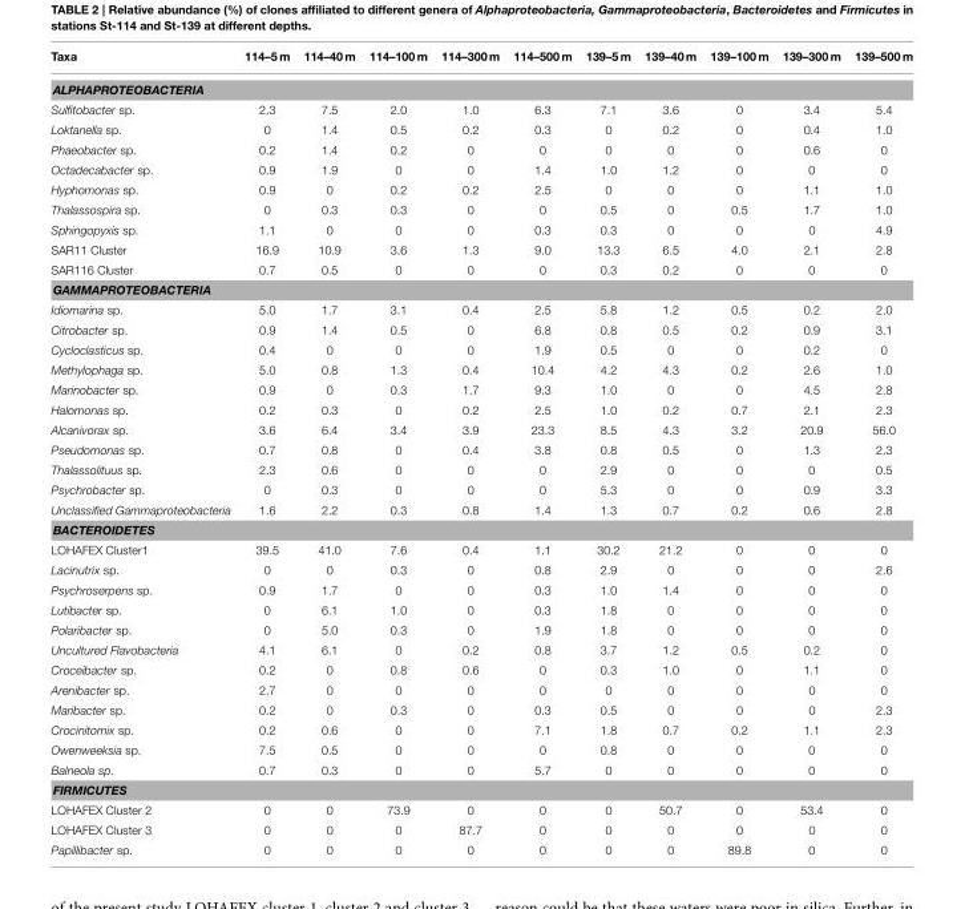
<table><thead><tr><td>Taxa</td><td>114–5 m</td><td>114–40 m</td><td>114–100 m</td><td>114–300 m</td><td>114–500 m</td><td>139–5 m</td><td>139–40 m</td><td>139–100 m</td><td>139–300 m</td><td>139–500 m</td></tr></thead><tbody><tr><td colspan="11">ALPHAPROTEOBACTERIA</td></tr><tr><td>Sulfitobacter sp.</td><td>2.3</td><td>7.5</td><td>2.0</td><td>1.0</td><td>6.3</td><td>7.1</td><td>3.6</td><td>0</td><td>3.4</td><td>5.4</td></tr><tr><td>Loktanella sp.</td><td>0</td><td>1.4</td><td>0.5</td><td>0.2</td><td>0.3</td><td>0</td><td>0.2</td><td>0</td><td>0.4</td><td>1.0</td></tr><tr><td>Phaeobacter sp.</td><td>0.2</td><td>1.4</td><td>0.2</td><td>0</td><td>0</td><td>0</td><td>0</td><td>0</td><td>0.6</td><td>0</td></tr><tr><td>Octadecabacter sp.</td><td>0.9</td><td>1.9</td><td>0</td><td>0</td><td>1.4</td><td>1.0</td><td>1.2</td><td>0</td><td>0</td><td>0</td></tr><tr><td>Hyphomonas sp.</td><td>0.9</td><td>0</td><td>0.2</td><td>0.2</td><td>2.5</td><td>0</td><td>0</td><td>0</td><td>1.1</td><td>1.0</td></tr><tr><td>Thalassospira sp.</td><td>0</td><td>0.3</td><td>0.3</td><td>0</td><td>0</td><td>0.5</td><td>0</td><td>0.5</td><td>1.7</td><td>1.0</td></tr><tr><td>Sphingopyxis sp.</td><td>1.1</td><td>0</td><td>0</td><td>0</td><td>0.3</td><td>0.3</td><td>0</td><td>0</td><td>0</td><td>4.9</td></tr><tr><td>SAR11 Cluster</td><td>16.9</td><td>10.9</td><td>3.6</td><td>1.3</td><td>9.0</td><td>13.3</td><td>6.5</td><td>4.0</td><td>2.1</td><td>2.8</td></tr><tr><td>SAR116 Cluster</td><td>0.7</td><td>0.5</td><td>0</td><td>0</td><td>0</td><td>0.3</td><td>0.2</td><td>0</td><td>0</td><td>0</td></tr><tr><td colspan="11">GAMMAPROTEOBACTERIA</td></tr><tr><td>Idiomarina sp.</td><td>5.0</td><td>1.7</td><td>3.1</td><td>0.4</td><td>2.5</td><td>5.8</td><td>1.2</td><td>0.5</td><td>0.2</td><td>2.0</td></tr><tr><td>Citrobacter sp.</td><td>0.9</td><td>1.4</td><td>0.5</td><td>0</td><td>6.8</td><td>0.8</td><td>0.5</td><td>0.2</td><td>0.9</td><td>3.1</td></tr><tr><td>Cycloclasticus sp.</td><td>0.4</td><td>0</td><td>0</td><td>0</td><td>1.9</td><td>0.5</td><td>0</td><td>0</td><td>0.2</td><td>0</td></tr><tr><td>Methylophaga sp.</td><td>5.0</td><td>0.8</td><td>1.3</td><td>0.4</td><td>10.4</td><td>4.2</td><td>4.3</td><td>0.2</td><td>2.6</td><td>1.0</td></tr><tr><td>Marinobacter sp.</td><td>0.9</td><td>0</td><td>0.3</td><td>1.7</td><td>9.3</td><td>1.0</td><td>0</td><td>0</td><td>4.5</td><td>2.8</td></tr><tr><td>Halomonas sp.</td><td>0.2</td><td>0.3</td><td>0</td><td>0.2</td><td>2.5</td><td>1.0</td><td>0.2</td><td>0.7</td><td>2.1</td><td>2.3</td></tr><tr><td>Alcanivorax sp.</td><td>3.6</td><td>6.4</td><td>3.4</td><td>3.9</td><td>23.3</td><td>8.5</td><td>4.3</td><td>3.2</td><td>20.9</td><td>56.0</td></tr><tr><td>Pseudomonas sp.</td><td>0.7</td><td>0.8</td><td>0</td><td>0.4</td><td>3.8</td><td>0.8</td><td>0.5</td><td>0</td><td>1.3</td><td>2.3</td></tr><tr><td>Thalassolituus sp.</td><td>2.3</td><td>0.6</td><td>0</td><td>0</td><td>0</td><td>2.9</td><td>0</td><td>0</td><td>0</td><td>0.5</td></tr><tr><td>Psychrobacter sp.</td><td>0</td><td>0.3</td><td>0</td><td>0</td><td>0</td><td>5.3</td><td>0</td><td>0</td><td>0.9</td><td>3.3</td></tr><tr><td>Unclassified Gammaproteobacteria</td><td>1.6</td><td>2.2</td><td>0.3</td><td>0.8</td><td>1.4</td><td>1.3</td><td>0.7</td><td>0.2</td><td>0.6</td><td>2.8</td></tr><tr><td colspan="11">BACTEROIDETES</td></tr><tr><td>LOHAFEX Cluster1</td><td>39.5</td><td>41.0</td><td>7.6</td><td>0.4</td><td>1.1</td><td>30.2</td><td>21.2</td><td>0</td><td>0</td><td>0</td></tr><tr><td>Lacinutrix sp.</td><td>0</td><td>0</td><td>0.3</td><td>0</td><td>0.8</td><td>2.9</td><td>0</td><td>0</td><td>0</td><td>2.6</td></tr><tr><td>Psychroserpens sp.</td><td>0.9</td><td>1.7</td><td>0</td><td>0</td><td>0.3</td><td>1.0</td><td>1.4</td><td>0</td><td>0</td><td>0</td></tr><tr><td>Lutibacter sp.</td><td>0</td><td>6.1</td><td>1.0</td><td>0</td><td>0.3</td><td>1.8</td><td>0</td><td>0</td><td>0</td><td>0</td></tr><tr><td>Polaribacter sp.</td><td>0</td><td>5.0</td><td>0.3</td><td>0</td><td>1.9</td><td>1.8</td><td>0</td><td>0</td><td>0</td><td>0</td></tr><tr><td>Uncultured Flavobacteria</td><td>4.1</td><td>6.1</td><td>0</td><td>0.2</td><td>0.8</td><td>3.7</td><td>1.2</td><td>0.5</td><td>0.2</td><td>0</td></tr><tr><td>Croceibacter sp.</td><td>0.2</td><td>0</td><td>0.8</td><td>0.6</td><td>0</td><td>0.3</td><td>1.0</td><td>0</td><td>1.1</td><td>0</td></tr><tr><td>Arenibacter sp.</td><td>2.7</td><td>0</td><td>0</td><td>0</td><td>0</td><td>0</td><td>0</td><td>0</td><td>0</td><td>0</td></tr><tr><td>Maribacter sp.</td><td>0.2</td><td>0</td><td>0.3</td><td>0</td><td>0.3</td><td>0.5</td><td>0</td><td>0</td><td>0</td><td>2.3</td></tr><tr><td>Crocinitomix sp.</td><td>0.2</td><td>0.6</td><td>0</td><td>0</td><td>7.1</td><td>1.8</td><td>0.7</td><td>0.2</td><td>1.1</td><td>2.3</td></tr><tr><td>Owenweeksia sp.</td><td>7.5</td><td>0.5</td><td>0</td><td>0</td><td>0</td><td>0.8</td><td>0</td><td>0</td><td>0</td><td>0</td></tr><tr><td>Balneola sp.</td><td>0.7</td><td>0.3</td><td>0</td><td>0</td><td>5.7</td><td>0</td><td>0</td><td>0</td><td>0</td><td>0</td></tr><tr><td colspan="11">FIRMICUTES</td></tr><tr><td>LOHAFEX Cluster 2</td><td>0</td><td>0</td><td>73.9</td><td>0</td><td>0</td><td>0</td><td>50.7</td><td>0</td><td>53.4</td><td>0</td></tr><tr><td>LOHAFEX Cluster 3</td><td>0</td><td>0</td><td>0</td><td>87.7</td><td>0</td><td>0</td><td>0</td><td>0</td><td>0</td><td>0</td></tr><tr><td>Papillibacter sp.</td><td>0</td><td>0</td><td>0</td><td>0</td><td>0</td><td>0</td><td>0</td><td>89.8</td><td>0</td><td>0</td></tr></tbody></table>